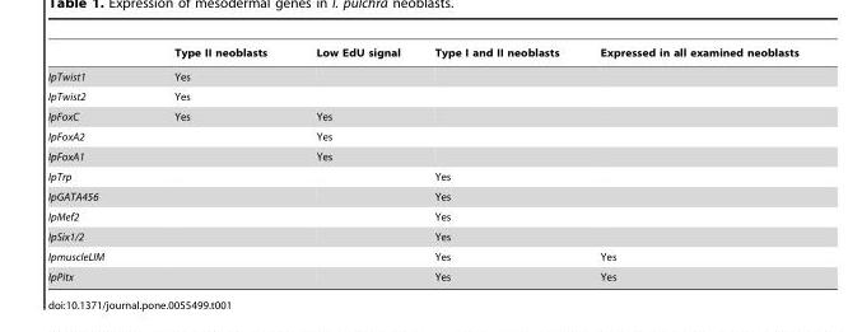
<table><thead><tr><td></td><td>Type II neoblasts</td><td>Low EdU signal</td><td>Type I and II neoblasts</td><td>Expressed in all examined neoblasts</td></tr></thead><tbody><tr><td>IpTwist1</td><td>Yes</td><td></td><td></td><td></td></tr><tr><td>IpTwist2</td><td>Yes</td><td></td><td></td><td></td></tr><tr><td>IpFoxC</td><td>Yes</td><td>Yes</td><td></td><td></td></tr><tr><td>IpFoxA2</td><td></td><td>Yes</td><td></td><td></td></tr><tr><td>IpFoxA1</td><td></td><td>Yes</td><td></td><td></td></tr><tr><td>IpTrp</td><td></td><td></td><td>Yes</td><td></td></tr><tr><td>IpGATA456</td><td></td><td></td><td>Yes</td><td></td></tr><tr><td>IpMef2</td><td></td><td></td><td>Yes</td><td></td></tr><tr><td>IpSix1/2</td><td></td><td></td><td>Yes</td><td></td></tr><tr><td>IpmuscleLIM</td><td></td><td></td><td>Yes</td><td>Yes</td></tr><tr><td>IpPitx</td><td></td><td></td><td>Yes</td><td>Yes</td></tr></tbody></table>